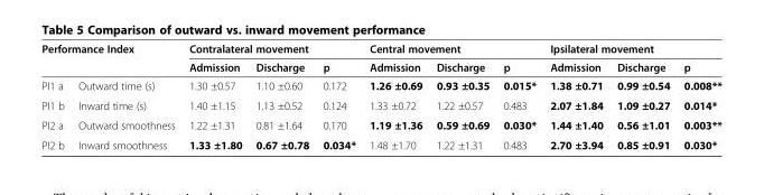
<table><thead><tr><td rowspan="2" colspan="2">Performance Index</td><td colspan="3">Contralateral movement</td><td colspan="3">Central movement</td><td colspan="3">Ipsilateral movement</td></tr><tr><td rowspan="2">Admission 1.30 ±0.57</td><td rowspan="2">Discharge 1.10 ±0.60</td><td rowspan="2">p 0.172</td><td rowspan="2">Admission 1.26 ±0.69</td><td rowspan="2">Discharge 0.93 ±0.35</td><td rowspan="2">p 0.015*</td><td rowspan="2">Admission 1.38 ±0.71</td><td rowspan="2">Discharge 0.99 ±0.54</td><td rowspan="2">p 0.008**</td></tr><tr><td>PI1 a</td><td>Outward time (s)</td></tr></thead><tbody><tr><td>PI1 b</td><td>Inward time (s)</td><td>1.40 ±1.15</td><td>1.13 ±0.52</td><td>0.124</td><td>1.33 ±0.72</td><td>1.22 ±0.57</td><td>0.483</td><td>2.07 ±1.84</td><td>1.09 ±0.27</td><td>0.014*</td></tr><tr><td>PI2 a</td><td>Outward smoothness</td><td>1.22 ±1.31</td><td>0.81 ±1.64</td><td>0.170</td><td>1.19 ±1.36</td><td>0.59 ±0.69</td><td>0.030*</td><td>1.44 ±1.40</td><td>0.56 ±1.01</td><td>0.003**</td></tr><tr><td>PI2 b</td><td>Inward smoothness</td><td>1.33 ±1.80</td><td>0.67 ±0.78</td><td>0.034*</td><td>1.48 ±1.70</td><td>1.22 ±1.31</td><td>0.483</td><td>2.70 ±3.94</td><td>0.85 ±0.91</td><td>0.030*</td></tr></tbody></table>